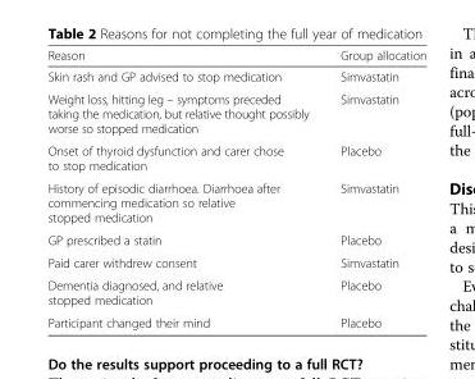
<table><thead><tr><td>Reason</td><td>Group allocation</td></tr></thead><tbody><tr><td>Skin rash and GP advised to stop medication</td><td>Simvastatin</td></tr><tr><td>Weight loss, hitting leg – symptoms preceded taking the medication, but relative thought possibly worse so stopped medication</td><td>Simvastatin</td></tr><tr><td>Onset of thyroid dysfunction and carer chose to stop medication</td><td>Placebo</td></tr><tr><td>History of episodic diarrhoea. Diarrhoea after commencing medication so relative stopped medication</td><td>Simvastatin</td></tr><tr><td>GP prescribed a statin</td><td>Placebo</td></tr><tr><td>Paid carer withdrew consent</td><td>Simvastatin</td></tr><tr><td>Dementia diagnosed, and relative stopped medication</td><td>Placebo</td></tr><tr><td>Participant changed their mind</td><td>Placebo</td></tr></tbody></table>